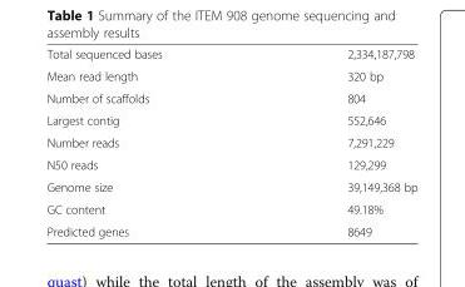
<table><tbody><tr><td>Total sequenced bases</td><td>2,334,187,798</td></tr><tr><td>Mean read length</td><td>320 bp</td></tr><tr><td>Number of scaffolds</td><td>804</td></tr><tr><td>Largest contig</td><td>552,646</td></tr><tr><td>Number reads</td><td>7,291,229</td></tr><tr><td>N50 reads</td><td>129,299</td></tr><tr><td>Genome size</td><td>39,149,368 bp</td></tr><tr><td>GC content</td><td>49.18%</td></tr><tr><td>Predicted genes</td><td>8649</td></tr></tbody></table>